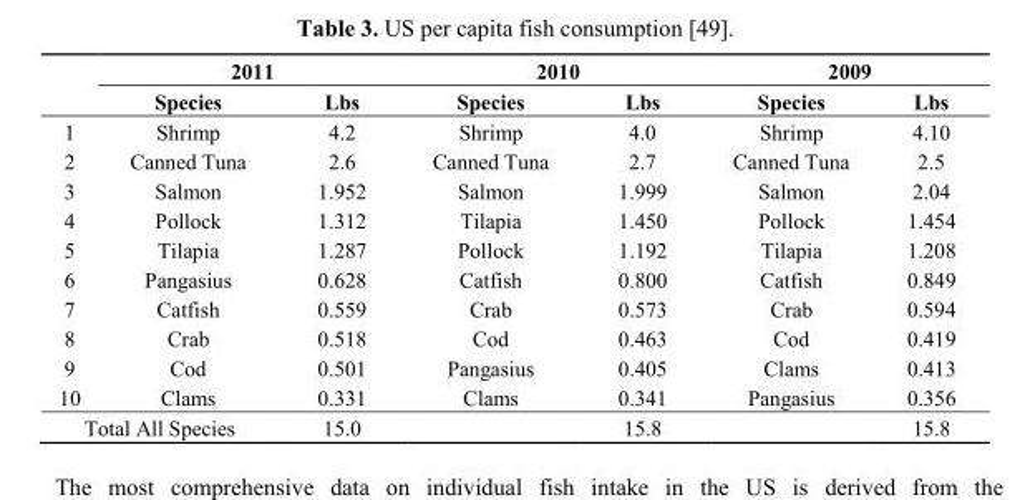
<table><thead><tr><td rowspan="2"></td><td colspan="2">2011</td><td colspan="2">2010</td><td colspan="2">2009</td></tr><tr><td>Species</td><td>Lbs</td><td>Species</td><td>Lbs</td><td>Species</td><td>Lbs</td></tr></thead><tbody><tr><td>1</td><td>Shrimp</td><td>4.2</td><td>Shrimp</td><td>4.0</td><td>Shrimp</td><td>4.10</td></tr><tr><td>2</td><td>Canned Tuna</td><td>2.6</td><td>Canned Tuna</td><td>2.7</td><td>Canned Tuna</td><td>2.5</td></tr><tr><td>3</td><td>Salmon</td><td>1.952</td><td>Salmon</td><td>1.999</td><td>Salmon</td><td>2.04</td></tr><tr><td>4</td><td>Pollock</td><td>1.312</td><td>Tilapia</td><td>1.450</td><td>Pollock</td><td>1.454</td></tr><tr><td>5</td><td>Tilapia</td><td>1.287</td><td>Pollock</td><td>1.192</td><td>Tilapia</td><td>1.208</td></tr><tr><td>6</td><td>Pangasius</td><td>0.628</td><td>Catfish</td><td>0.800</td><td>Catfish</td><td>0.849</td></tr><tr><td>7</td><td>Catfish</td><td>0.559</td><td>Crab</td><td>0.573</td><td>Crab</td><td>0.594</td></tr><tr><td>8</td><td>Crab</td><td>0.518</td><td>Cod</td><td>0.463</td><td>Cod</td><td>0.419</td></tr><tr><td>9</td><td>Cod</td><td>0.501</td><td>Pangasius</td><td>0.405</td><td>Clams</td><td>0.413</td></tr><tr><td>10</td><td>Clams</td><td>0.331</td><td>Clams</td><td>0.341</td><td>Pangasius</td><td>0.356</td></tr><tr><td colspan="2">Total All Species</td><td>15.0</td><td></td><td>15.8</td><td></td><td>15.8</td></tr></tbody></table>